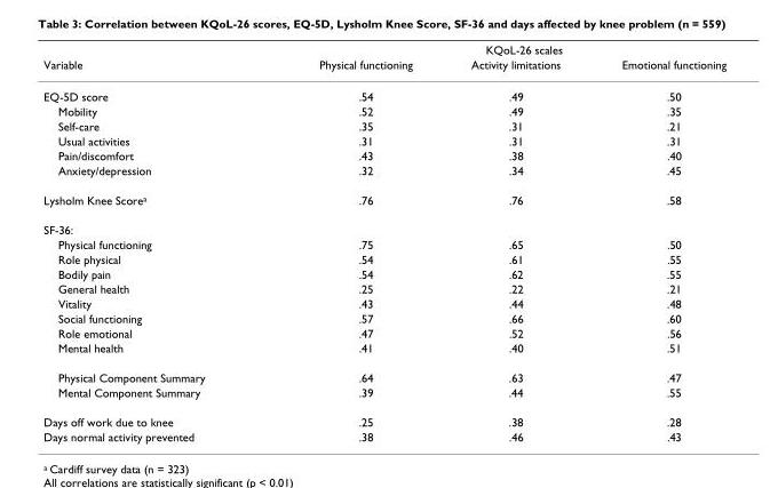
<table><thead><tr><td rowspan="2">Variable</td><td colspan="3">KQoL-26 scales</td></tr><tr><td>Physical functioning</td><td>Activity limitations</td><td>Emotional functioning</td></tr></thead><tbody><tr><td>EQ-5D score</td><td>.54</td><td>.49</td><td>.50</td></tr><tr><td>Mobility</td><td>.52</td><td>.49</td><td>.35</td></tr><tr><td>Self-care</td><td>.35</td><td>.31</td><td>.21</td></tr><tr><td>Usual activities</td><td>.31</td><td>.31</td><td>.31</td></tr><tr><td>Pain/discomfort</td><td>.43</td><td>.38</td><td>.40</td></tr><tr><td>Anxiety/depression</td><td>.32</td><td>.34</td><td>.45</td></tr><tr><td>Lysholm Knee Score<sup>a</sup></td><td>.76</td><td>.76</td><td>.58</td></tr><tr><td colspan="4">SF-36:</td></tr><tr><td>Physical functioning</td><td>.75</td><td>.65</td><td>.50</td></tr><tr><td>Role physical</td><td>.54</td><td>.61</td><td>.55</td></tr><tr><td>Bodily pain</td><td>.54</td><td>.62</td><td>.55</td></tr><tr><td>General health</td><td>.25</td><td>.22</td><td>.21</td></tr><tr><td>Vitality</td><td>.43</td><td>.44</td><td>.48</td></tr><tr><td>Social functioning</td><td>.57</td><td>.66</td><td>.60</td></tr><tr><td>Role emotional</td><td>.47</td><td>.52</td><td>.56</td></tr><tr><td>Mental health</td><td>.41</td><td>.40</td><td>.51</td></tr><tr><td>Physical Component Summary</td><td>.64</td><td>.63</td><td>.47</td></tr><tr><td>Mental Component Summary</td><td>.39</td><td>.44</td><td>.55</td></tr><tr><td>Days off work due to knee</td><td>.25</td><td>.38</td><td>.28</td></tr><tr><td>Days normal activity prevented</td><td>.38</td><td>.46</td><td>.43</td></tr></tbody></table>